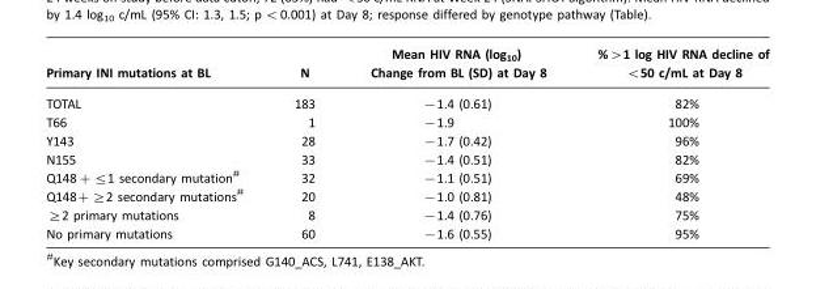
<table><thead><tr><td>Primary INI mutations at BL</td><td>N</td><td>Mean HIV RNA (log10) Change from BL (SD) at Day 8</td><td>%&gt;1 log HIV RNA decline of &lt;50 c/mL at Day 8</td></tr></thead><tbody><tr><td>TOTAL</td><td>183</td><td>−1.4 (0.61)</td><td>82%</td></tr><tr><td>T66</td><td>1</td><td>−1.9</td><td>100%</td></tr><tr><td>Y143</td><td>28</td><td>−1.7 (0.42)</td><td>96%</td></tr><tr><td>N155</td><td>33</td><td>−1.4 (0.51)</td><td>82%</td></tr><tr><td>Q148+≤1 secondary mutation#</td><td>32</td><td>−1.1 (0.51)</td><td>69%</td></tr><tr><td>Q148+≥2 secondary mutations#</td><td>20</td><td>−1.0 (0.81)</td><td>48%</td></tr><tr><td>≥2 primary mutations</td><td>8</td><td>−1.4 (0.76)</td><td>75%</td></tr><tr><td>No primary mutations</td><td>60</td><td>−1.6 (0.55)</td><td>95%</td></tr></tbody></table>